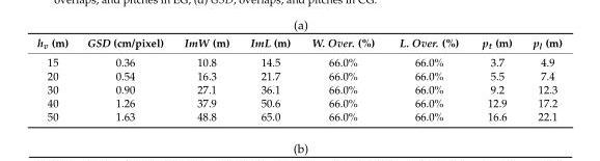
<table><thead><tr><td>h<sub>v</sub> (m)</td><td>GSD (cm/pixel)</td><td>ImW (m)</td><td>ImL (m)</td><td>W. Over. (%)</td><td>L. Over. (%)</td><td>p<sub>t</sub> (m)</td><td>p<sub>l</sub> (m)</td></tr></thead><tbody><tr><td>15</td><td>0.36</td><td>10.8</td><td>14.5</td><td>66.0%</td><td>66.0%</td><td>3.7</td><td>4.9</td></tr><tr><td>20</td><td>0.54</td><td>16.3</td><td>21.7</td><td>66.0%</td><td>66.0%</td><td>5.5</td><td>7.4</td></tr><tr><td>30</td><td>0.90</td><td>27.1</td><td>36.1</td><td>66.0%</td><td>66.0%</td><td>9.2</td><td>12.3</td></tr><tr><td>40</td><td>1.26</td><td>37.9</td><td>50.6</td><td>66.0%</td><td>66.0%</td><td>12.9</td><td>17.2</td></tr><tr><td>50</td><td>1.63</td><td>48.8</td><td>65.0</td><td>66.0%</td><td>66.0%</td><td>16.6</td><td>22.1</td></tr></tbody></table>